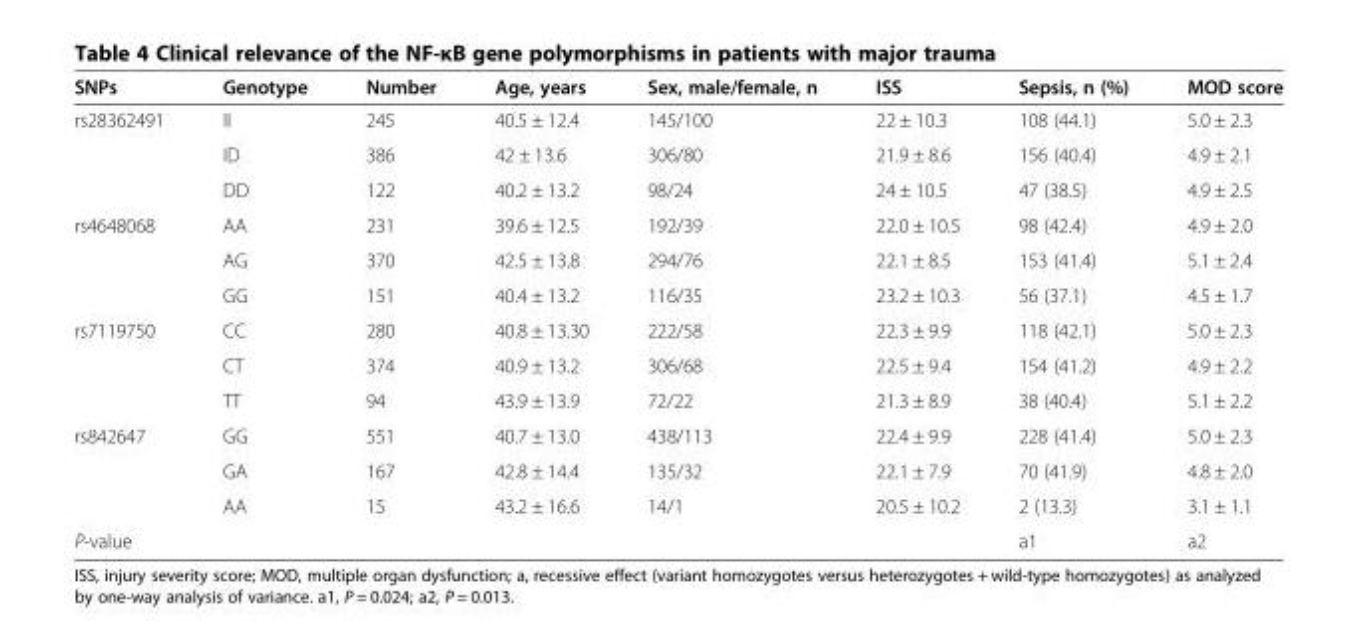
<table><thead><tr><td>SNPs</td><td>Genotype</td><td>Number</td><td>Age, years</td><td>Sex, male/female, n</td><td>ISS</td><td>Sepsis, n (%)</td><td>MOD score</td></tr></thead><tbody><tr><td rowspan="3">rs28362491</td><td>II</td><td>245</td><td>40.5 ± 12.4</td><td>145/100</td><td>22 ± 10.3</td><td>108 (44.1)</td><td>5.0 ± 2.3</td></tr><tr><td>ID</td><td>386</td><td>42 ± 13.6</td><td>306/80</td><td>21.9 ± 8.6</td><td>156 (40.4)</td><td>4.9 ± 2.1</td></tr><tr><td>DD</td><td>122</td><td>40.2 ± 13.2</td><td>98/24</td><td>24 ± 10.5</td><td>47 (38.5)</td><td>4.9 ± 2.5</td></tr><tr><td rowspan="3">rs4648068</td><td>AA</td><td>231</td><td>39.6 ± 12.5</td><td>192/39</td><td>22.0 ± 10.5</td><td>98 (42.4)</td><td>4.9 ± 2.0</td></tr><tr><td>AG</td><td>370</td><td>42.5 ± 13.8</td><td>294/76</td><td>22.1 ± 8.5</td><td>153 (41.4)</td><td>5.1 ± 2.4</td></tr><tr><td>GG</td><td>151</td><td>40.4 ± 13.2</td><td>116/35</td><td>23.2 ± 10.3</td><td>56 (37.1)</td><td>4.5 ± 1.7</td></tr><tr><td rowspan="3">rs7119750</td><td>CC</td><td>280</td><td>40.8 ± 13.30</td><td>222/58</td><td>22.3 ± 9.9</td><td>118 (42.1)</td><td>5.0 ± 2.3</td></tr><tr><td>CT</td><td>374</td><td>40.9 ± 13.2</td><td>306/68</td><td>22.5 ± 9.4</td><td>154 (41.2)</td><td>4.9 ± 2.2</td></tr><tr><td>TT</td><td>94</td><td>43.9 ± 13.9</td><td>72/22</td><td>21.3 ± 8.9</td><td>38 (40.4)</td><td>5.1 ± 2.2</td></tr><tr><td rowspan="3">rs842647</td><td>GG</td><td>551</td><td>40.7 ± 13.0</td><td>438/113</td><td>22.4 ± 9.9</td><td>228 (41.4)</td><td>5.0 ± 2.3</td></tr><tr><td>GA</td><td>167</td><td>42.8 ± 14.4</td><td>135/32</td><td>22.1 ± 7.9</td><td>70 (41.9)</td><td>4.8 ± 2.0</td></tr><tr><td>AA</td><td>15</td><td>43.2 ± 16.6</td><td>14/1</td><td>20.5 ± 10.2</td><td>2 (13.3)</td><td>3.1 ± 1.1</td></tr><tr><td>P-value</td><td></td><td></td><td></td><td></td><td></td><td>a1</td><td>a2</td></tr></tbody></table>